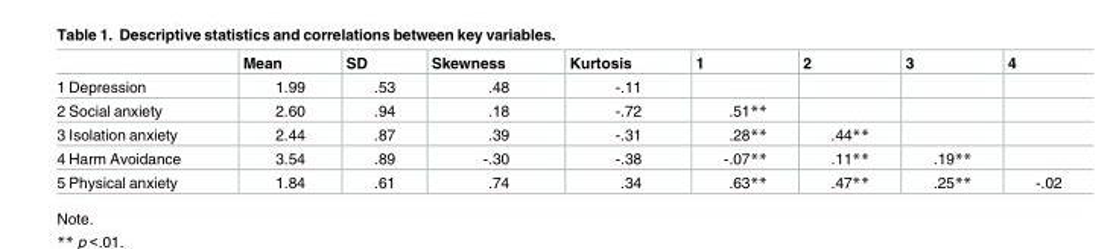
<table><thead><tr><td></td><td>Mean</td><td>SD</td><td>Skewness</td><td>Kurtosis</td><td>1</td><td>2</td><td>3</td><td>4</td></tr></thead><tbody><tr><td>1 Depression</td><td>1.99</td><td>.53</td><td>.48</td><td>-.11</td><td></td><td></td><td></td><td></td></tr><tr><td>2 Social anxiety</td><td>2.60</td><td>.94</td><td>.18</td><td>-.72</td><td>.51**</td><td></td><td></td><td></td></tr><tr><td>3 Isolation anxiety</td><td>2.44</td><td>.87</td><td>.39</td><td>-.31</td><td>.28**</td><td>.44**</td><td></td><td></td></tr><tr><td>4 Harm Avoidance</td><td>3.54</td><td>.89</td><td>-.30</td><td>-.38</td><td>-.07**</td><td>.11**</td><td>.19**</td><td></td></tr><tr><td>5 Physical anxiety</td><td>1.84</td><td>.61</td><td>.74</td><td>.34</td><td>.63**</td><td>.47**</td><td>.25**</td><td>-.02</td></tr></tbody></table>